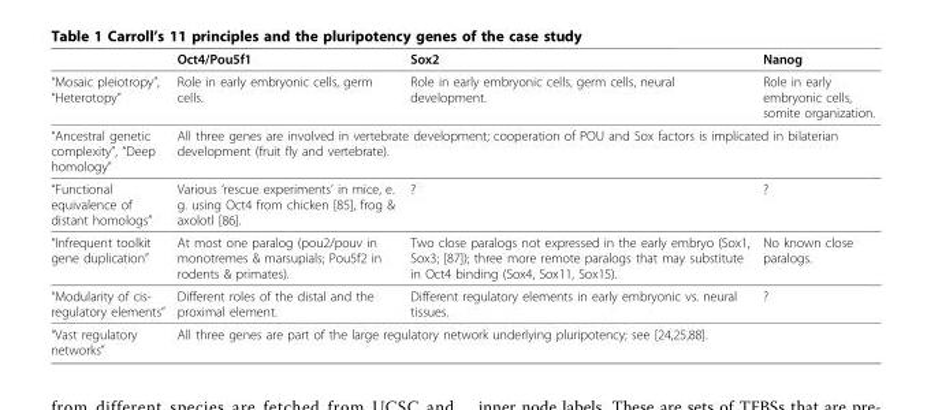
<table><thead><tr><td></td><td>Oct4/Pou5f1</td><td>Sox2</td><td>Nanog</td></tr></thead><tbody><tr><td>“Mosaic pleiotropy”, “Heterotopy”</td><td>Role in early embryonic cells, germ cells.</td><td>Role in early embryonic cells, germ cells, neural development.</td><td>Role in early embryonic cells, somite organization.</td></tr><tr><td>“Ancestral genetic complexity”, “Deep homology”</td><td colspan="3">All three genes are involved in vertebrate development; cooperation of POU and Sox factors is implicated in bilaterian development (fruit fly and vertebrate).</td></tr><tr><td>“Functional equivalence of distant homologs”</td><td>Various ‘rescue experiments’ in mice, e. g. using Oct4 from chicken [85], frog &amp; axolotl [86].</td><td>?</td><td>?</td></tr><tr><td>“Infrequent toolkit gene duplication”</td><td>At most one paralog (pou2/pouv in monotremes &amp; marsupials; Pou5f2 in rodents &amp; primates).</td><td>Two close paralogs not expressed in the early embryo (Sox1, Sox3; [87]); three more remote paralogs that may substitute in Oct4 binding (Sox4, Sox11, Sox15).</td><td>No known close paralogs.</td></tr><tr><td>“Modularity of cis- regulatory elements”</td><td>Different roles of the distal and the proximal element.</td><td>Different regulatory elements in early embryonic vs. neural tissues.</td><td>?</td></tr><tr><td>“Vast regulatory networks”</td><td colspan="3">All three genes are part of the large regulatory network underlying pluripotency; see [24,25,88].</td></tr></tbody></table>